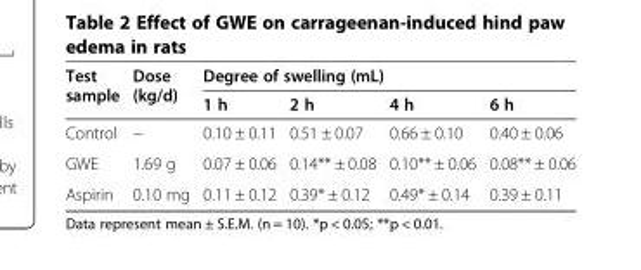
<table><thead><tr><td rowspan="2">Test sample</td><td rowspan="2">Dose (kg/d)</td><td colspan="4">Degree of swelling (mL)</td></tr><tr><td>1 h</td><td>2 h</td><td>4 h</td><td>6 h</td></tr></thead><tbody><tr><td>Control</td><td>−</td><td>0.10 ± 0.11</td><td>0.51 ± 0.07</td><td>0.66 ± 0.10</td><td>0.40 ± 0.06</td></tr><tr><td>GWE</td><td>1.69 g</td><td>0.07 ± 0.06</td><td>0.14** ± 0.08</td><td>0.10** ± 0.06</td><td>0.08** ± 0.06</td></tr><tr><td>Aspirin</td><td>0.10 mg</td><td>0.11 ± 0.12</td><td>0.39* ± 0.12</td><td>0.49* ± 0.14</td><td>0.39 ± 0.11</td></tr></tbody></table>